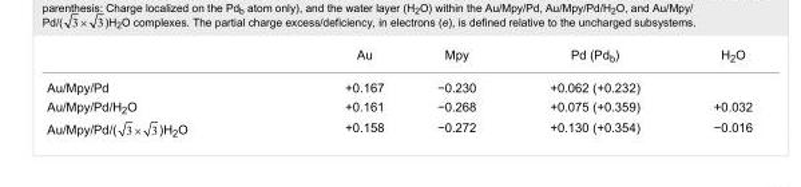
<table><thead><tr><td></td><td>Au</td><td>Mpy</td><td>Pd (Pd<sub>b</sub>)</td><td>H<sub>2</sub>O</td></tr></thead><tbody><tr><td>Au/Mpy/Pd</td><td>+0.167</td><td>−0.230</td><td>+0.062 (+0.232)</td><td></td></tr><tr><td>Au/Mpy/Pd/H<sub>2</sub>O</td><td>+0.161</td><td>−0.268</td><td>+0.075 (+0.359)</td><td>+0.032</td></tr><tr><td>Au/Mpy/Pd/( )H<sub>2</sub>O</td><td>+0.158</td><td>−0.272</td><td>+0.130 (+0.354)</td><td>−0.016</td></tr></tbody></table>